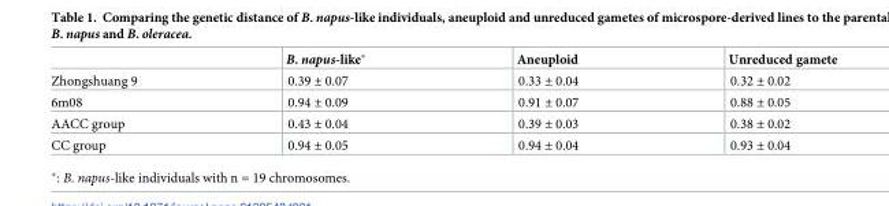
<table><thead><tr><td></td><td>B. napus-like*</td><td>Aneuploid</td><td>Unreduced gamete</td></tr></thead><tbody><tr><td>Zhongshuang 9</td><td>0.39 ± 0.07</td><td>0.33 ± 0.04</td><td>0.32 ± 0.02</td></tr><tr><td>6m08</td><td>0.94 ± 0.09</td><td>0.91 ± 0.07</td><td>0.88 ± 0.05</td></tr><tr><td>AACC group</td><td>0.43 ± 0.04</td><td>0.39 ± 0.03</td><td>0.38 ± 0.02</td></tr><tr><td>CC group</td><td>0.94 ± 0.05</td><td>0.94 ± 0.04</td><td>0.93 ± 0.04</td></tr></tbody></table>